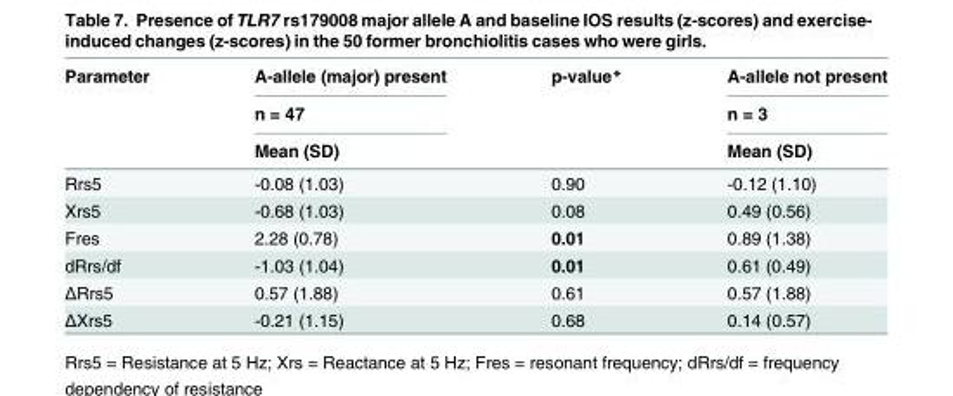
<table><thead><tr><td rowspan="3">Parameter</td><td rowspan="3">A-allele (major) present n = 47 Mean (SD)</td><td rowspan="3">p-value*</td><td rowspan="3">A-allele not present n = 3 Mean (SD)</td></tr><tr></tr><tr></tr></thead><tbody><tr><td>Rrs5</td><td>-0.08 (1.03)</td><td>0.90</td><td>-0.12 (1.10)</td></tr><tr><td>Xrs5</td><td>-0.68 (1.03)</td><td>0.08</td><td>0.49 (0.56)</td></tr><tr><td>Fres</td><td>2.28 (0.78)</td><td>0.01</td><td>0.89 (1.38)</td></tr><tr><td>dRrs/df</td><td>-1.03 (1.04)</td><td>0.01</td><td>0.61 (0.49)</td></tr><tr><td>ΔRrs5</td><td>0.57 (1.88)</td><td>0.61</td><td>0.57 (1.88)</td></tr><tr><td>ΔXrs5</td><td>-0.21 (1.15)</td><td>0.68</td><td>0.14 (0.57)</td></tr></tbody></table>